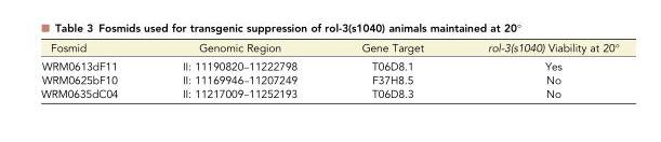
<table><thead><tr><td>Fosmid</td><td>Genomic Region</td><td>Gene Target</td><td>rol-3(s1040) Viability at 20°</td></tr></thead><tbody><tr><td>WRM0613dF11</td><td>II: 11190820–11222798</td><td>T06D8.1</td><td>Yes</td></tr><tr><td>WRM0625bF10</td><td>II: 11169946–11207249</td><td>F37H8.5</td><td>No</td></tr><tr><td>WRM0635dC04</td><td>II: 11217009–11252193</td><td>T06D8.3</td><td>No</td></tr></tbody></table>